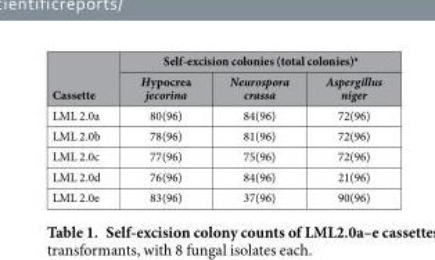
<table><thead><tr><td rowspan="2">Cassette</td><td colspan="3">Self-excision colonies (total colonies)<sup>a</sup></td></tr><tr><td>Hypocrea jecorina</td><td>Neurospora crassa</td><td>Aspergillus niger</td></tr></thead><tbody><tr><td>LML 2.0a</td><td>80(96)</td><td>84(96)</td><td>72(96)</td></tr><tr><td>LML 2.0b</td><td>78(96)</td><td>81(96)</td><td>72(96)</td></tr><tr><td>LML 2.0c</td><td>77(96)</td><td>75(96)</td><td>72(96)</td></tr><tr><td>LML 2.0d</td><td>76(96)</td><td>84(96)</td><td>21(96)</td></tr><tr><td>LML 2.0e</td><td>83(96)</td><td>37(96)</td><td>90(96)</td></tr></tbody></table>